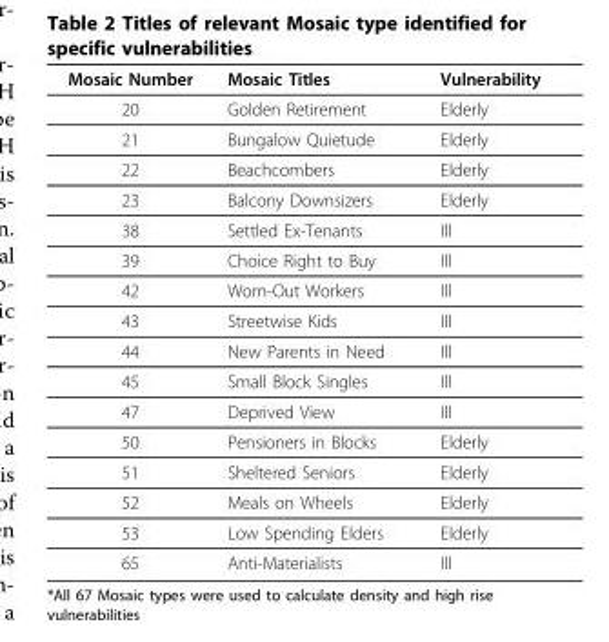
<table><thead><tr><td>Mosaic Number</td><td>Mosaic Titles</td><td>Vulnerability</td></tr></thead><tbody><tr><td>20</td><td>Golden Retirement</td><td>Elderly</td></tr><tr><td>21</td><td>Bungalow Quietude</td><td>Elderly</td></tr><tr><td>22</td><td>Beachcombers</td><td>Elderly</td></tr><tr><td>23</td><td>Balcony Downsizers</td><td>Elderly</td></tr><tr><td>38</td><td>Settled Ex-Tenants</td><td>Ill</td></tr><tr><td>39</td><td>Choice Right to Buy</td><td>Ill</td></tr><tr><td>42</td><td>Worn-Out Workers</td><td>Ill</td></tr><tr><td>43</td><td>Streetwise Kids</td><td>Ill</td></tr><tr><td>44</td><td>New Parents in Need</td><td>Ill</td></tr><tr><td>45</td><td>Small Block Singles</td><td>Ill</td></tr><tr><td>47</td><td>Deprived View</td><td>Ill</td></tr><tr><td>50</td><td>Pensioners in Blocks</td><td>Elderly</td></tr><tr><td>51</td><td>Sheltered Seniors</td><td>Elderly</td></tr><tr><td>52</td><td>Meals on Wheels</td><td>Elderly</td></tr><tr><td>53</td><td>Low Spending Elders</td><td>Elderly</td></tr><tr><td>65</td><td>Anti-Materialists</td><td>Ill</td></tr></tbody></table>